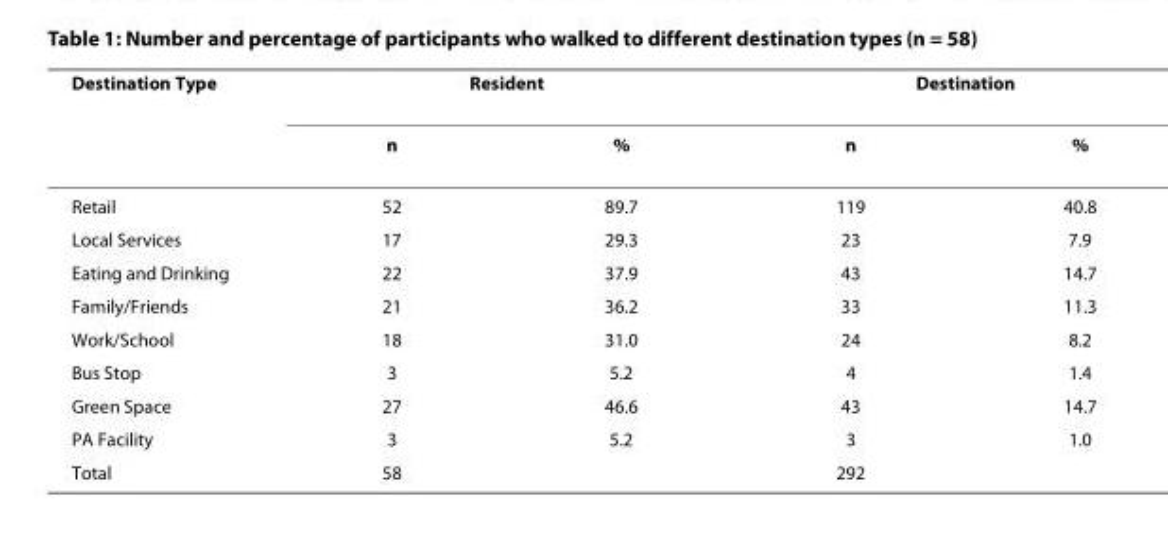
<table><thead><tr><td rowspan="2">Destination Type</td><td colspan="2">Resident</td><td colspan="2">Destination</td></tr><tr><td>n</td><td>%</td><td>n</td><td>%</td></tr></thead><tbody><tr><td>Retail</td><td>52</td><td>89.7</td><td>119</td><td>40.8</td></tr><tr><td>Local Services</td><td>17</td><td>29.3</td><td>23</td><td>7.9</td></tr><tr><td>Eating and Drinking</td><td>22</td><td>37.9</td><td>43</td><td>14.7</td></tr><tr><td>Family/Friends</td><td>21</td><td>36.2</td><td>33</td><td>11.3</td></tr><tr><td>Work/School</td><td>18</td><td>31.0</td><td>24</td><td>8.2</td></tr><tr><td>Bus Stop</td><td>3</td><td>5.2</td><td>4</td><td>1.4</td></tr><tr><td>Green Space</td><td>27</td><td>46.6</td><td>43</td><td>14.7</td></tr><tr><td>PA Facility</td><td>3</td><td>5.2</td><td>3</td><td>1.0</td></tr><tr><td>Total</td><td>58</td><td></td><td>292</td><td></td></tr></tbody></table>